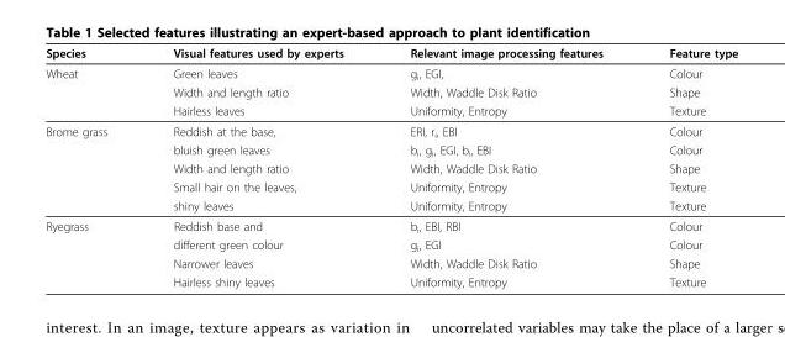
<table><thead><tr><td>Species</td><td>Visual features used by experts</td><td>Relevant image processing features</td><td>Feature type</td></tr></thead><tbody><tr><td rowspan="3">Wheat</td><td>Green leaves</td><td>g<sub>i</sub>, EGI,</td><td>Colour</td></tr><tr><td>Width and length ratio</td><td>Width, Waddle Disk Ratio</td><td>Shape</td></tr><tr><td>Hairless leaves</td><td>Uniformity, Entropy</td><td>Texture</td></tr><tr><td rowspan="5">Brome grass</td><td>Reddish at the base,</td><td>ERI, r<sub>i</sub>, EBI</td><td>Colour</td></tr><tr><td>bluish green leaves</td><td>b<sub>i</sub>, g<sub>i</sub>, EGI, b<sub>i</sub>, EBI</td><td>Colour</td></tr><tr><td>Width and length ratio</td><td>Width, Waddle Disk Ratio</td><td>Shape</td></tr><tr><td>Small hair on the leaves,</td><td>Uniformity, Entropy</td><td>Texture</td></tr><tr><td>shiny leaves</td><td>Uniformity, Entropy</td><td>Texture</td></tr><tr><td rowspan="4">Ryegrass</td><td>Reddish base and</td><td>b<sub>i</sub>, EBI, RBI</td><td>Colour</td></tr><tr><td>different green colour</td><td>g<sub>i</sub>, EGI</td><td>Colour</td></tr><tr><td>Narrower leaves</td><td>Width, Waddle Disk Ratio</td><td>Shape</td></tr><tr><td>Hairless shiny leaves</td><td>Uniformity, Entropy</td><td>Texture</td></tr></tbody></table>